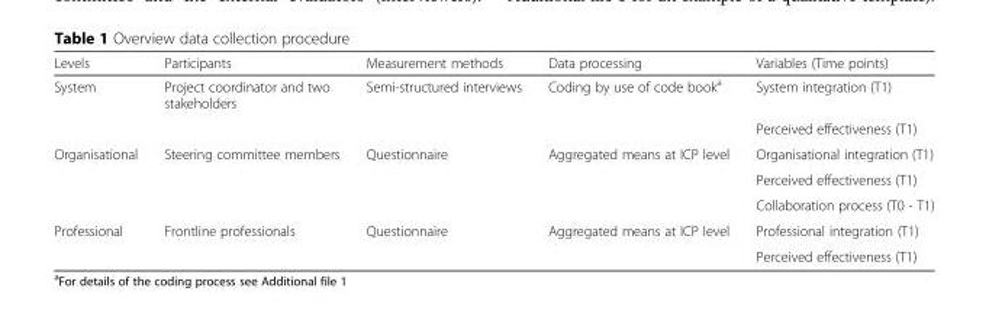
<table><thead><tr><td>Levels</td><td>Participants</td><td>Measurement methods</td><td>Data processing</td><td>Variables (Time points)</td></tr></thead><tbody><tr><td rowspan="2">System</td><td>Project coordinator and two stakeholders</td><td>Semi-structured interviews</td><td>Coding by use of code book<sup>a</sup></td><td>System integration (T1)</td></tr><tr><td></td><td></td><td></td><td>Perceived effectiveness (T1)</td></tr><tr><td rowspan="3">Organisational</td><td>Steering committee members</td><td>Questionnaire</td><td>Aggregated means at ICP level</td><td>Organisational integration (T1)</td></tr><tr><td></td><td></td><td></td><td>Perceived effectiveness (T1)</td></tr><tr><td></td><td></td><td></td><td>Collaboration process (T0 - T1)</td></tr><tr><td rowspan="2">Professional</td><td>Frontline professionals</td><td>Questionnaire</td><td>Aggregated means at ICP level</td><td>Professional integration (T1)</td></tr><tr><td></td><td></td><td></td><td>Perceived effectiveness (T1)</td></tr></tbody></table>